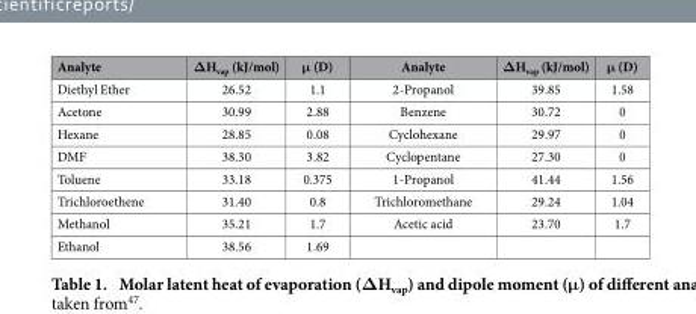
<table><thead><tr><td>Analyte</td><td>ΔH<sub>vap</sub> (kJ/mol)</td><td>μ (D)</td><td>Analyte</td><td>ΔH<sub>vap</sub> (kJ/mol)</td><td>μ (D)</td></tr></thead><tbody><tr><td>Diethyl Ether</td><td>26.52</td><td>1.1</td><td>2-Propanol</td><td>39.85</td><td>1.58</td></tr><tr><td>Acetone</td><td>30.99</td><td>2.88</td><td>Benzene</td><td>30.72</td><td>0</td></tr><tr><td>Hexane</td><td>28.85</td><td>0.08</td><td>Cyclohexane</td><td>29.97</td><td>0</td></tr><tr><td>DMF</td><td>38.30</td><td>3.82</td><td>Cyclopentane</td><td>27.30</td><td>0</td></tr><tr><td>Toluene</td><td>33.18</td><td>0.375</td><td>1-Propanol</td><td>41.44</td><td>1.56</td></tr><tr><td>Trichloroethene</td><td>31.40</td><td>0.8</td><td>Trichloromethane</td><td>29.24</td><td>1.04</td></tr><tr><td>Methanol</td><td>35.21</td><td>1.7</td><td>Acetic acid</td><td>23.70</td><td>1.7</td></tr><tr><td>Ethanol</td><td>38.56</td><td>1.69</td><td></td><td></td><td></td></tr></tbody></table>